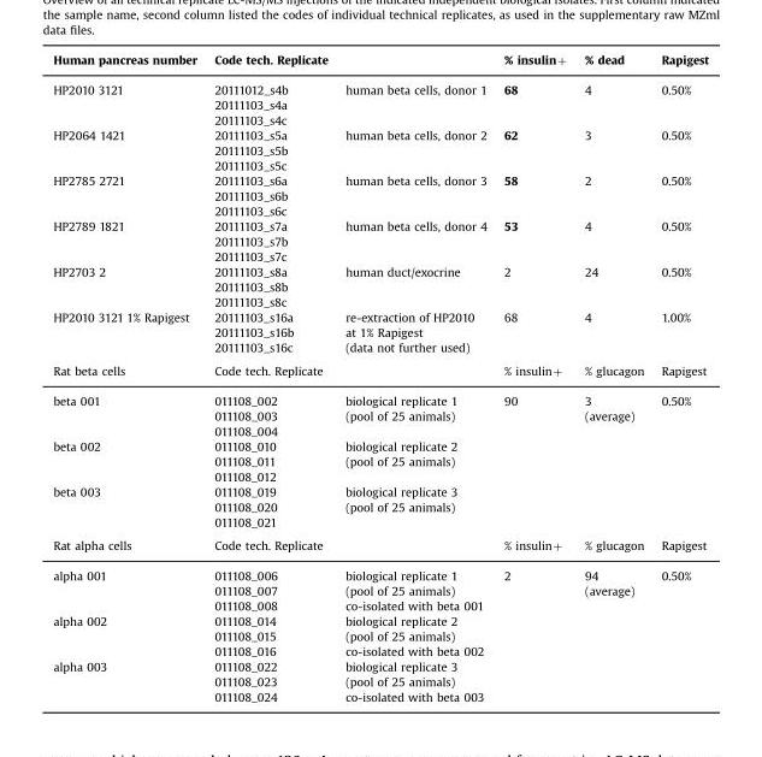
<table><thead><tr><td>Human pancreas number</td><td>Code tech. Replicate</td><td></td><td>% insulin+</td><td>% dead</td><td>Rapigest</td></tr></thead><tbody><tr><td rowspan="3">HP2010 3121</td><td>20111012_s4b</td><td>human beta cells, donor 1</td><td>68</td><td>4</td><td>0.50%</td></tr><tr><td>20111103_s4a</td><td></td><td></td><td></td><td></td></tr><tr><td>20111103_s4c</td><td></td><td></td><td></td><td></td></tr><tr><td rowspan="3">HP2064 1421</td><td>20111103_s5a</td><td>human beta cells, donor 2</td><td>62</td><td>3</td><td>0.50%</td></tr><tr><td>20111103_s5b</td><td></td><td></td><td></td><td></td></tr><tr><td>20111103_s5c</td><td></td><td></td><td></td><td></td></tr><tr><td rowspan="3">HP2785 2721</td><td>20111103_s6a</td><td>human beta cells, donor 3</td><td>58</td><td>2</td><td>0.50%</td></tr><tr><td>20111103_s6b</td><td></td><td></td><td></td><td></td></tr><tr><td>20111103_s6c</td><td></td><td></td><td></td><td></td></tr><tr><td rowspan="3">HP2789 1821</td><td>20111103_s7a</td><td>human beta cells, donor 4</td><td>53</td><td>4</td><td>0.50%</td></tr><tr><td>20111103_s7b</td><td></td><td></td><td></td><td></td></tr><tr><td>20111103_s7c</td><td></td><td></td><td></td><td></td></tr><tr><td rowspan="3">HP2703 2</td><td>20111103_s8a</td><td>human duct/exocrine</td><td>2</td><td>24</td><td>0.50%</td></tr><tr><td>20111103_s8b</td><td></td><td></td><td></td><td></td></tr><tr><td>20111103_s8c</td><td></td><td></td><td></td><td></td></tr><tr><td rowspan="3">HP2010 3121 1% Rapigest</td><td>20111103_s16a</td><td>re-extraction of HP2010</td><td>68</td><td>4</td><td>1.00%</td></tr><tr><td>20111103_s16b</td><td>at 1% Rapigest</td><td></td><td></td><td></td></tr><tr><td>20111103_s16c</td><td>(data not further used)</td><td></td><td></td><td></td></tr><tr><td>Rat beta cells</td><td>Code tech. Replicate</td><td></td><td>% insulin+</td><td>% glucagon</td><td>Rapigest</td></tr><tr><td rowspan="3">beta 001</td><td>011108_002</td><td>biological replicate 1</td><td>90</td><td>3</td><td>0.50%</td></tr><tr><td>011108_003</td><td>(pool of 25 animals)</td><td></td><td>(average)</td><td></td></tr><tr><td>011108_004</td><td></td><td></td><td></td><td></td></tr><tr><td rowspan="3">beta 002</td><td>011108_010</td><td>biological replicate 2</td><td></td><td></td><td></td></tr><tr><td>011108_011</td><td>(pool of 25 animals)</td><td></td><td></td><td></td></tr><tr><td>011108_012</td><td></td><td></td><td></td><td></td></tr><tr><td rowspan="3">beta 003</td><td>011108_019</td><td>biological replicate 3</td><td></td><td></td><td></td></tr><tr><td>011108_020</td><td>(pool of 25 animals)</td><td></td><td></td><td></td></tr><tr><td>011108_021</td><td></td><td></td><td></td><td></td></tr><tr><td>Rat alpha cells</td><td>Code tech. Replicate</td><td></td><td>% insulin+</td><td>% glucagon</td><td>Rapigest</td></tr><tr><td rowspan="3">alpha 001</td><td>011108_006</td><td>biological replicate 1</td><td>2</td><td>94</td><td>0.50%</td></tr><tr><td>011108_007</td><td>(pool of 25 animals)</td><td></td><td>(average)</td><td></td></tr><tr><td>011108_008</td><td>co-isolated with beta 001</td><td></td><td></td><td></td></tr><tr><td rowspan="3">alpha 002</td><td>011108_014</td><td>biological replicate 2</td><td></td><td></td><td></td></tr><tr><td>011108_015</td><td>(pool of 25 animals)</td><td></td><td></td><td></td></tr><tr><td>011108_016</td><td>co-isolated with beta 002</td><td></td><td></td><td></td></tr><tr><td rowspan="3">alpha 003</td><td>011108_022</td><td>biological replicate 3</td><td></td><td></td><td></td></tr><tr><td>011108_023</td><td>(pool of 25 animals)</td><td></td><td></td><td></td></tr><tr><td>011108_024</td><td>co-isolated with beta 003</td><td></td><td></td><td></td></tr></tbody></table>